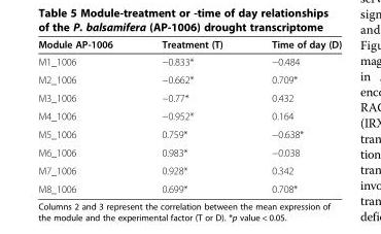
<table><thead><tr><td>Module AP-1006</td><td>Treatment (T)</td><td>Time of day (D)</td></tr></thead><tbody><tr><td>M1_1006</td><td>−0.833*</td><td>−0.484</td></tr><tr><td>M2_1006</td><td>−0.662*</td><td>0.709*</td></tr><tr><td>M3_1006</td><td>−0.77*</td><td>0.432</td></tr><tr><td>M4_1006</td><td>−0.952*</td><td>0.164</td></tr><tr><td>M5_1006</td><td>0.759*</td><td>−0.638*</td></tr><tr><td>M6_1006</td><td>0.983*</td><td>−0.038</td></tr><tr><td>M7_1006</td><td>0.928*</td><td>0.342</td></tr><tr><td>M8_1006</td><td>0.699*</td><td>0.708*</td></tr></tbody></table>